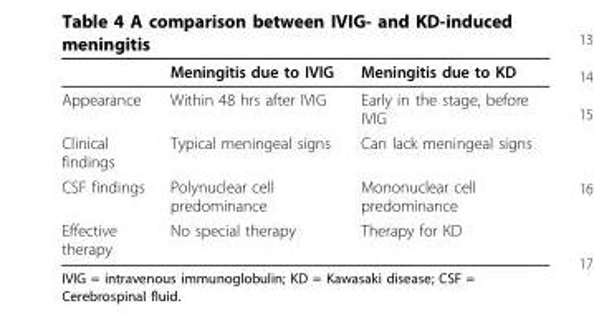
<table><thead><tr><td></td><td>Meningitis due to IVIG</td><td>Meningitis due to KD</td></tr></thead><tbody><tr><td>Appearance</td><td>Within 48 hrs after IVIG</td><td>Early in the stage, before IVIG</td></tr><tr><td>Clinical findings</td><td>Typical meningeal signs</td><td>Can lack meningeal signs</td></tr><tr><td>CSF findings</td><td>Polynuclear cell predominance</td><td>Mononuclear cell predominance</td></tr><tr><td>Effective therapy</td><td>No special therapy</td><td>Therapy for KD</td></tr></tbody></table>